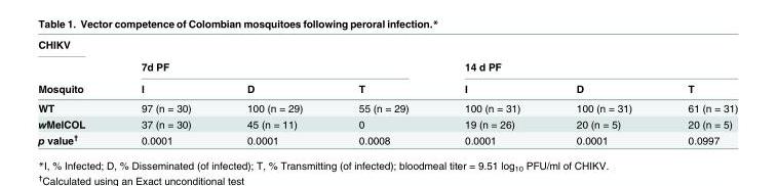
<table><thead><tr><td rowspan="3">CHIKV Mosquito</td><td></td><td></td><td></td><td></td><td></td><td></td></tr><tr><td colspan="3">7d PF</td><td colspan="3">14 d PF</td></tr><tr><td>I</td><td>D</td><td>T</td><td>I</td><td>D</td><td>T</td></tr></thead><tbody><tr><td>WT</td><td>97 (n = 30)</td><td>100 (n = 29)</td><td>55 (n = 29)</td><td>100 (n = 31)</td><td>100 (n = 31)</td><td>61 (n = 31)</td></tr><tr><td>wMelCOL</td><td>37 (n = 30)</td><td>45 (n = 11)</td><td>0</td><td>19 (n = 26)</td><td>20 (n = 5)</td><td>20 (n = 5)</td></tr><tr><td>p value<sup>†</sup></td><td>0.0001</td><td>0.0001</td><td>0.0008</td><td>0.0001</td><td>0.0001</td><td>0.0997</td></tr></tbody></table>